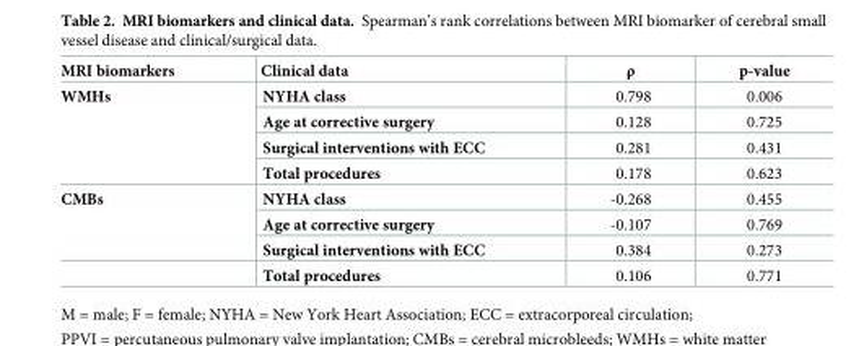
<table><thead><tr><td>MRI biomarkers</td><td>Clinical data</td><td>ρ</td><td>p-value</td></tr></thead><tbody><tr><td rowspan="4">WMHs</td><td>NYHA class</td><td>0.798</td><td>0.006</td></tr><tr><td>Age at corrective surgery</td><td>0.128</td><td>0.725</td></tr><tr><td>Surgical interventions with ECC</td><td>0.281</td><td>0.431</td></tr><tr><td>Total procedures</td><td>0.178</td><td>0.623</td></tr><tr><td rowspan="4">CMBs</td><td>NYHA class</td><td>-0.268</td><td>0.455</td></tr><tr><td>Age at corrective surgery</td><td>-0.107</td><td>0.769</td></tr><tr><td>Surgical interventions with ECC</td><td>0.384</td><td>0.273</td></tr><tr><td>Total procedures</td><td>0.106</td><td>0.771</td></tr></tbody></table>